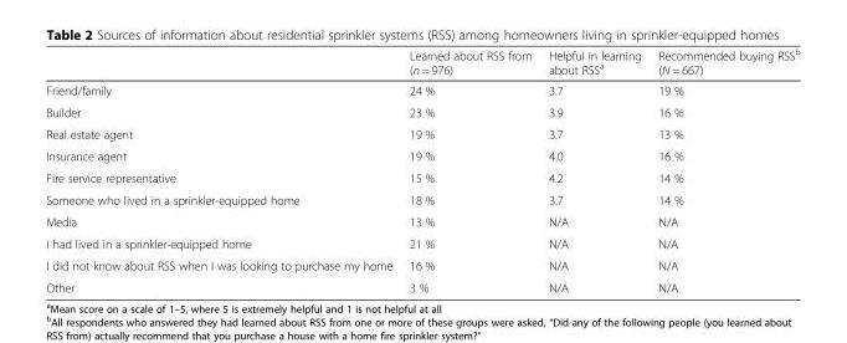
<table><thead><tr><td></td><td>Learned about RSS from (n = 976)</td><td>Helpful in learning about RSS<sup>a</sup></td><td>Recommended buying RSS<sup>b</sup> (N = 667)</td></tr></thead><tbody><tr><td>Friend/family</td><td>24 %</td><td>3.7</td><td>19 %</td></tr><tr><td>Builder</td><td>23 %</td><td>3.9</td><td>16 %</td></tr><tr><td>Real estate agent</td><td>19 %</td><td>3.7</td><td>13 %</td></tr><tr><td>Insurance agent</td><td>19 %</td><td>4.0</td><td>16 %</td></tr><tr><td>Fire service representative</td><td>15 %</td><td>4.2</td><td>14 %</td></tr><tr><td>Someone who lived in a sprinkler-equipped home</td><td>18 %</td><td>3.7</td><td>14 %</td></tr><tr><td>Media</td><td>13 %</td><td>N/A</td><td>N/A</td></tr><tr><td>I had lived in a sprinkler-equipped home</td><td>21 %</td><td>N/A</td><td>N/A</td></tr><tr><td>I did not know about RSS when I was looking to purchase my home</td><td>16 %</td><td>N/A</td><td>N/A</td></tr><tr><td>Other</td><td>3 %</td><td>N/A</td><td>N/A</td></tr></tbody></table>